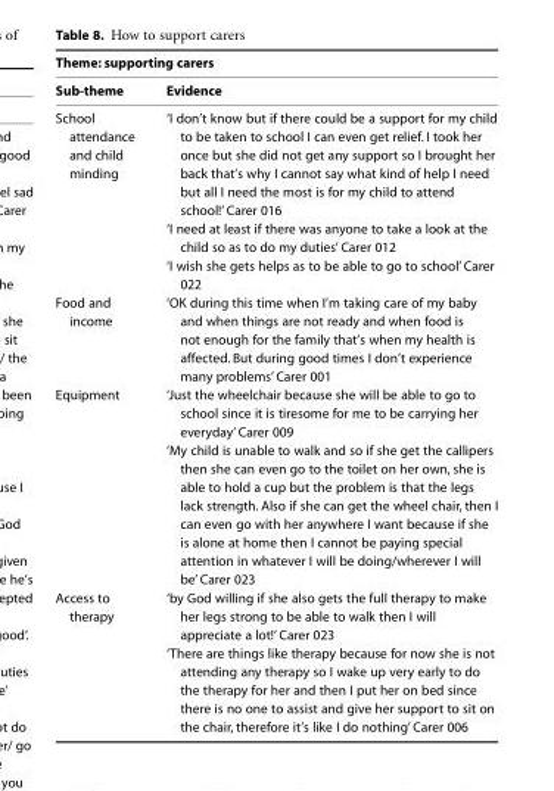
<table><thead><tr><td colspan="2">Theme: supporting carers</td></tr><tr><td>Sub-theme</td><td>Evidence</td></tr></thead><tbody><tr><td rowspan="3">School attendance and child minding</td><td>‘I don’t know but if there could be a support for my child to be taken to school I can even get relief. I took her once but she did not get any support so I brought her back that’s why I cannot say what kind of help I need but all I need the most is for my child to attend school!’ Carer 016</td></tr><tr><td>‘I need at least if there was anyone to take a look at the child so as to do my duties’ Carer 012</td></tr><tr><td>‘I wish she gets helps as to be able to go to school’ Carer 022</td></tr><tr><td>Food and income</td><td>‘OK during this time when I’m taking care of my baby and when things are not ready and when food is not enough for the family that’s when my health is affected. But during good times I don’t experience many problems’ Carer 001</td></tr><tr><td rowspan="2">Equipment</td><td>‘Just the wheelchair because she will be able to go to school since it is tiresome for me to be carrying her everyday’ Carer 009</td></tr><tr><td>‘My child is unable to walk and so if she get the callipers then she can even go to the toilet on her own, she is able to hold a cup but the problem is that the legs lack strength. Also if she can get the wheel chair, then I can even go with her anywhere I want because if she is alone at home then I cannot be paying special attention in whatever I will be doing/wherever I will be’ Carer 023</td></tr><tr><td rowspan="2">Access to therapy</td><td>‘by God willing if she also gets the full therapy to make her legs strong to be able to walk then I will appreciate a lot!’ Carer 023</td></tr><tr><td>‘There are things like therapy because for now she is not attending any therapy so I wake up very early to do the therapy for her and then I put her on bed since there is no one to assist and give her support to sit on the chair, therefore it’s like I do nothing’ Carer 006</td></tr></tbody></table>